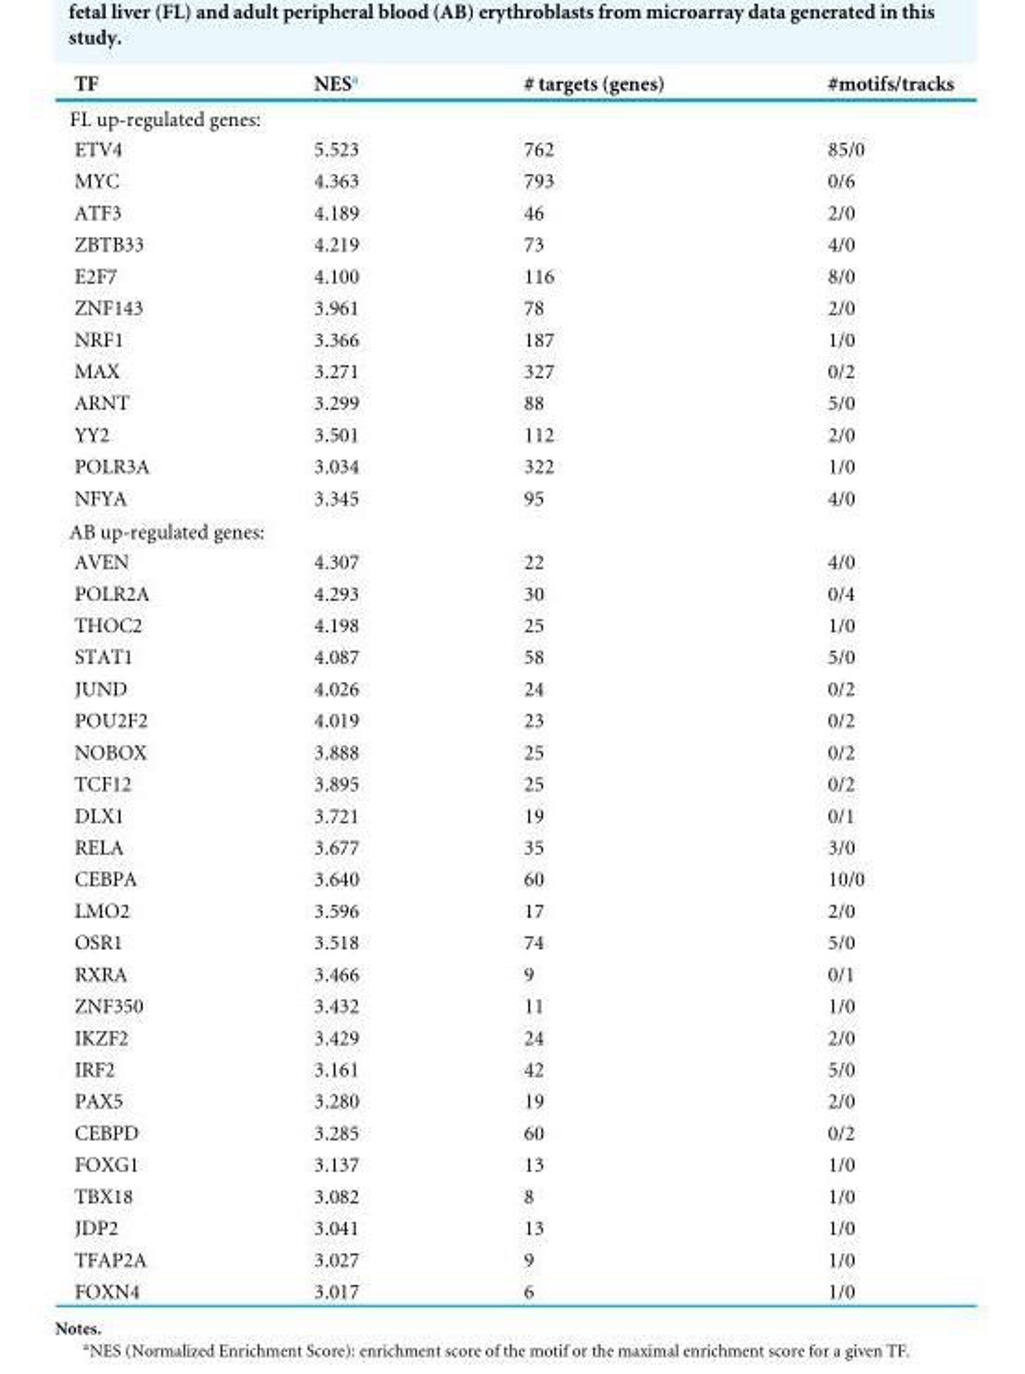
<table><thead><tr><td>TF</td><td>NES<sup>a</sup></td><td># targets (genes)</td><td>#motifs/tracks</td></tr></thead><tbody><tr><td colspan="4">FL up-regulated genes:</td></tr><tr><td>ETV4</td><td>5.523</td><td>762</td><td>85/0</td></tr><tr><td>MYC</td><td>4.363</td><td>793</td><td>0/6</td></tr><tr><td>ATF3</td><td>4.189</td><td>46</td><td>2/0</td></tr><tr><td>ZBTB33</td><td>4.219</td><td>73</td><td>4/0</td></tr><tr><td>E2F7</td><td>4.100</td><td>116</td><td>8/0</td></tr><tr><td>ZNF143</td><td>3.961</td><td>78</td><td>2/0</td></tr><tr><td>NRF1</td><td>3.366</td><td>187</td><td>1/0</td></tr><tr><td>MAX</td><td>3.271</td><td>327</td><td>0/2</td></tr><tr><td>ARNT</td><td>3.299</td><td>88</td><td>5/0</td></tr><tr><td>YY2</td><td>3.501</td><td>112</td><td>2/0</td></tr><tr><td>POLR3A</td><td>3.034</td><td>322</td><td>1/0</td></tr><tr><td>NFYA</td><td>3.345</td><td>95</td><td>4/0</td></tr><tr><td colspan="4">AB up-regulated genes:</td></tr><tr><td>AVEN</td><td>4.307</td><td>22</td><td>4/0</td></tr><tr><td>POLR2A</td><td>4.293</td><td>30</td><td>0/4</td></tr><tr><td>THOC2</td><td>4.198</td><td>25</td><td>1/0</td></tr><tr><td>STAT1</td><td>4.087</td><td>58</td><td>5/0</td></tr><tr><td>JUND</td><td>4.026</td><td>24</td><td>0/2</td></tr><tr><td>POU2F2</td><td>4.019</td><td>23</td><td>0/2</td></tr><tr><td>NOBOX</td><td>3.888</td><td>25</td><td>0/2</td></tr><tr><td>TCF12</td><td>3.895</td><td>25</td><td>0/2</td></tr><tr><td>DLX1</td><td>3.721</td><td>19</td><td>0/1</td></tr><tr><td>RELA</td><td>3.677</td><td>35</td><td>3/0</td></tr><tr><td>CEBPA</td><td>3.640</td><td>60</td><td>10/0</td></tr><tr><td>LMO2</td><td>3.596</td><td>17</td><td>2/0</td></tr><tr><td>OSR1</td><td>3.518</td><td>74</td><td>5/0</td></tr><tr><td>RXRA</td><td>3.466</td><td>9</td><td>0/1</td></tr><tr><td>ZNF350</td><td>3.432</td><td>11</td><td>1/0</td></tr><tr><td>IKZF2</td><td>3.429</td><td>24</td><td>2/0</td></tr><tr><td>IRF2</td><td>3.161</td><td>42</td><td>5/0</td></tr><tr><td>PAX5</td><td>3.280</td><td>19</td><td>2/0</td></tr><tr><td>CEBPD</td><td>3.285</td><td>60</td><td>0/2</td></tr><tr><td>FOXG1</td><td>3.137</td><td>13</td><td>1/0</td></tr><tr><td>TBX18</td><td>3.082</td><td>8</td><td>1/0</td></tr><tr><td>JDP2</td><td>3.041</td><td>13</td><td>1/0</td></tr><tr><td>TFAP2A</td><td>3.027</td><td>9</td><td>1/0</td></tr><tr><td>FOXN4</td><td>3.017</td><td>6</td><td>1/0</td></tr></tbody></table>